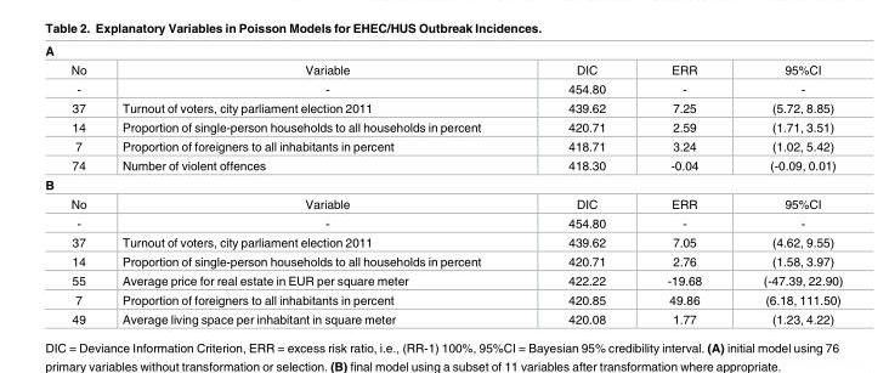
<table><tbody><tr><td colspan="5">A</td></tr><tr><td>No</td><td>Variable</td><td>DIC</td><td>ERR</td><td>95%CI</td></tr><tr><td>-</td><td>-</td><td>454.80</td><td>-</td><td>-</td></tr><tr><td>37</td><td>Turnout of voters, city parliament election 2011</td><td>439.62</td><td>7.25</td><td>(5.72, 8.85)</td></tr><tr><td>14</td><td>Proportion of single-person households to all households in percent</td><td>420.71</td><td>2.59</td><td>(1.71, 3.51)</td></tr><tr><td>7</td><td>Proportion of foreigners to all inhabitants in percent</td><td>418.71</td><td>3.24</td><td>(1.02, 5.42)</td></tr><tr><td>74</td><td>Number of violent offences</td><td>418.30</td><td>-0.04</td><td>(-0.09, 0.01)</td></tr><tr><td colspan="5">B</td></tr><tr><td>No</td><td>Variable</td><td>DIC</td><td>ERR</td><td>95%CI</td></tr><tr><td>-</td><td>-</td><td>454.80</td><td>-</td><td>-</td></tr><tr><td>37</td><td>Turnout of voters, city parliament election 2011</td><td>439.62</td><td>7.05</td><td>(4.62, 9.55)</td></tr><tr><td>14</td><td>Proportion of single-person households to all households in percent</td><td>420.71</td><td>2.76</td><td>(1.58, 3.97)</td></tr><tr><td>55</td><td>Average price for real estate in EUR per square meter</td><td>422.22</td><td>-19.68</td><td>(-47.39, 22.90)</td></tr><tr><td>7</td><td>Proportion of foreigners to all inhabitants in percent</td><td>420.85</td><td>49.86</td><td>(6.18, 111.50)</td></tr><tr><td>49</td><td>Average living space per inhabitant in square meter</td><td>420.08</td><td>1.77</td><td>(1.23, 4.22)</td></tr></tbody></table>